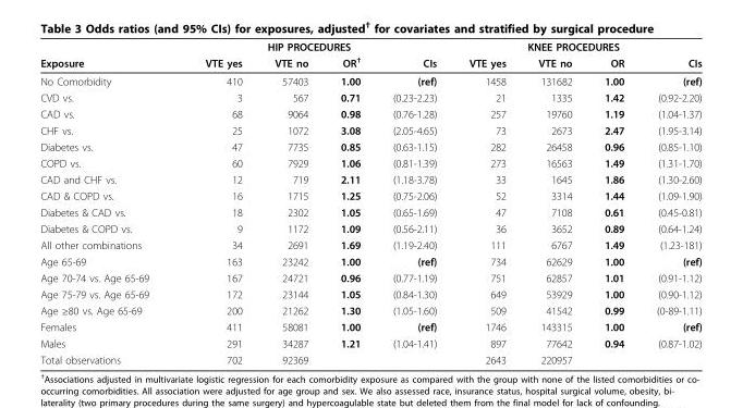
<table><thead><tr><td rowspan="2">Exposure</td><td colspan="4">HIP PROCEDURES</td><td colspan="4">KNEE PROCEDURES</td></tr><tr><td>VTE yes</td><td>VTE no</td><td>OR<sup>†</sup></td><td>CIs</td><td>VTE yes</td><td>VTE no</td><td>OR</td><td>CIs</td></tr></thead><tbody><tr><td>No Comorbidity</td><td>410</td><td>57403</td><td>1.00</td><td>(ref)</td><td>1458</td><td>131682</td><td>1.00</td><td>(ref)</td></tr><tr><td>CVD vs.</td><td>3</td><td>567</td><td>0.71</td><td>(0.23-2.23)</td><td>21</td><td>1335</td><td>1.42</td><td>(0.92-2.20)</td></tr><tr><td>CAD vs.</td><td>68</td><td>9064</td><td>0.98</td><td>(0.76-1.28)</td><td>257</td><td>19760</td><td>1.19</td><td>(1.04-1.37)</td></tr><tr><td>CHF vs.</td><td>25</td><td>1072</td><td>3.08</td><td>(2.05-4.65)</td><td>73</td><td>2673</td><td>2.47</td><td>(1.95-3.14)</td></tr><tr><td>Diabetes vs.</td><td>47</td><td>7735</td><td>0.85</td><td>(0.63-1.15)</td><td>282</td><td>26458</td><td>0.96</td><td>(0.85-1.10)</td></tr><tr><td>COPD vs.</td><td>60</td><td>7929</td><td>1.06</td><td>(0.81-1.39)</td><td>273</td><td>16563</td><td>1.49</td><td>(1.31-1.70)</td></tr><tr><td>CAD and CHF vs.</td><td>12</td><td>719</td><td>2.11</td><td>(1.18-3.78)</td><td>33</td><td>1645</td><td>1.86</td><td>(1.30-2.60)</td></tr><tr><td>CAD &amp; COPD vs.</td><td>16</td><td>1715</td><td>1.25</td><td>(0.75-2.06)</td><td>52</td><td>3314</td><td>1.44</td><td>(1.09-1.90)</td></tr><tr><td>Diabetes &amp; CAD vs.</td><td>18</td><td>2302</td><td>1.05</td><td>(0.65-1.69)</td><td>47</td><td>7108</td><td>0.61</td><td>(0.45-0.81)</td></tr><tr><td>Diabetes &amp; COPD vs.</td><td>9</td><td>1172</td><td>1.09</td><td>(0.56-2.11)</td><td>36</td><td>3652</td><td>0.89</td><td>(0.64-1.24)</td></tr><tr><td>All other combinations</td><td>34</td><td>2691</td><td>1.69</td><td>(1.19-2.40)</td><td>111</td><td>6767</td><td>1.49</td><td>(1.23-181)</td></tr><tr><td>Age 65-69</td><td>163</td><td>23242</td><td>1.00</td><td>(ref)</td><td>734</td><td>62629</td><td>1.00</td><td>(ref)</td></tr><tr><td>Age 70-74 vs. Age 65-69</td><td>167</td><td>24721</td><td>0.96</td><td>(0.77-1.19)</td><td>751</td><td>62857</td><td>1.01</td><td>(0.91-1.12)</td></tr><tr><td>Age 75-79 vs. Age 65-69</td><td>172</td><td>23144</td><td>1.05</td><td>(0.84-1.30)</td><td>649</td><td>53929</td><td>1.00</td><td>(0.90-1.12)</td></tr><tr><td>Age ≥80 vs. Age 65-69</td><td>200</td><td>21262</td><td>1.30</td><td>(1.05-1.60)</td><td>509</td><td>41542</td><td>0.99</td><td>(0-89-1.11)</td></tr><tr><td>Females</td><td>411</td><td>58081</td><td>1.00</td><td>(ref)</td><td>1746</td><td>143315</td><td>1.00</td><td>(ref)</td></tr><tr><td>Males</td><td>291</td><td>34287</td><td>1.21</td><td>(1.04-1.41)</td><td>897</td><td>77642</td><td>0.94</td><td>(0.87-1.02)</td></tr><tr><td>Total observations</td><td>702</td><td>92369</td><td></td><td></td><td>2643</td><td>220957</td><td></td><td></td></tr></tbody></table>